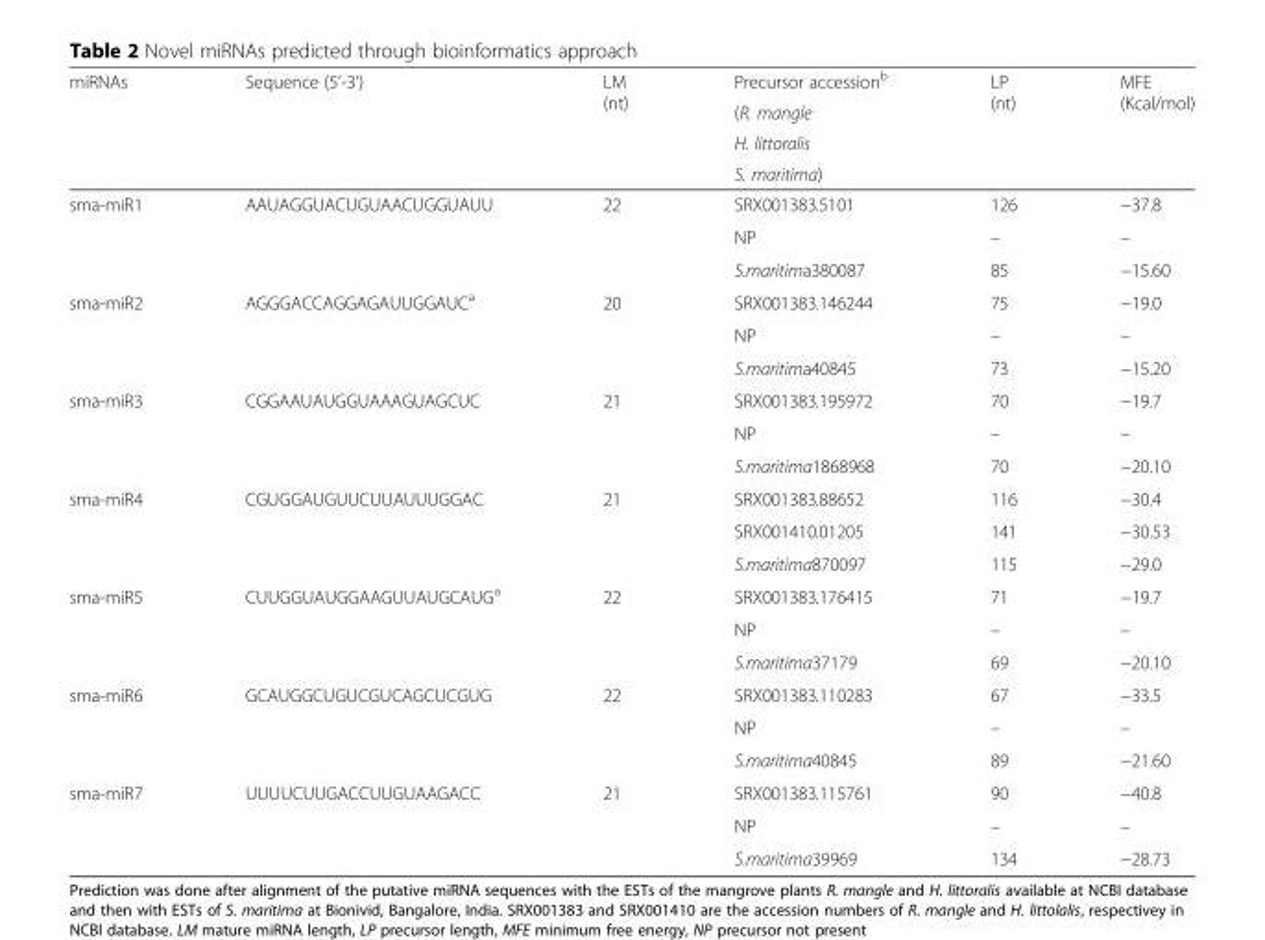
<table><thead><tr><td rowspan="4">miRNAs</td><td rowspan="4">Sequence (5’-3’)</td><td rowspan="4">LM (nt)</td><td rowspan="4">Precursor accession<sup>b</sup> (R. mangle H. littoralis S. maritima)</td><td rowspan="4">LP (nt)</td><td rowspan="4">MFE (Kcal/mol)</td></tr><tr></tr><tr></tr><tr></tr></thead><tbody><tr><td rowspan="3">sma-miR1</td><td rowspan="3">AAUAGGUACUGUAACUGGUAUU</td><td rowspan="3">22</td><td>SRX001383.5101</td><td>126</td><td>−37.8</td></tr><tr><td>NP</td><td>–</td><td>–</td></tr><tr><td>S.maritima380087</td><td>85</td><td>−15.60</td></tr><tr><td rowspan="3">sma-miR2</td><td rowspan="3">AGGGACCAGGAGAUUGGAUC<sup>a</sup></td><td rowspan="3">20</td><td>SRX001383.146244</td><td>75</td><td>−19.0</td></tr><tr><td>NP</td><td>–</td><td>–</td></tr><tr><td>S.maritima40845</td><td>73</td><td>−15.20</td></tr><tr><td rowspan="3">sma-miR3</td><td rowspan="3">CGGAAUAUGGUAAAGUAGCUC</td><td rowspan="3">21</td><td>SRX001383.195972</td><td>70</td><td>−19.7</td></tr><tr><td>NP</td><td>–</td><td>–</td></tr><tr><td>S.maritima1868968</td><td>70</td><td>−20.10</td></tr><tr><td rowspan="3">sma-miR4</td><td rowspan="3">CGUGGAUGUUCUUAUUUGGAC</td><td rowspan="3">21</td><td>SRX001383.88652</td><td>116</td><td>−30.4</td></tr><tr><td>SRX001410.01205</td><td>141</td><td>−30.53</td></tr><tr><td>S.maritima870097</td><td>115</td><td>−29.0</td></tr><tr><td rowspan="3">sma-miR5</td><td rowspan="3">CUUGGUAUGGAAGUUAUGCAUG<sup>a</sup></td><td rowspan="3">22</td><td>SRX001383.176415</td><td>71</td><td>−19.7</td></tr><tr><td>NP</td><td>–</td><td>–</td></tr><tr><td>S.maritima37179</td><td>69</td><td>−20.10</td></tr><tr><td rowspan="3">sma-miR6</td><td rowspan="3">GCAUGGCUGUCGUCAGCUCGUG</td><td rowspan="3">22</td><td>SRX001383.110283</td><td>67</td><td>−33.5</td></tr><tr><td>NP</td><td>–</td><td>–</td></tr><tr><td>S.maritima40845</td><td>89</td><td>−21.60</td></tr><tr><td rowspan="3">sma-miR7</td><td rowspan="3">UUUUCUUGACCUUGUAAGACC</td><td rowspan="3">21</td><td>SRX001383.115761</td><td>90</td><td>−40.8</td></tr><tr><td>NP</td><td>–</td><td>–</td></tr><tr><td>S.maritima39969</td><td>134</td><td>−28.73</td></tr></tbody></table>